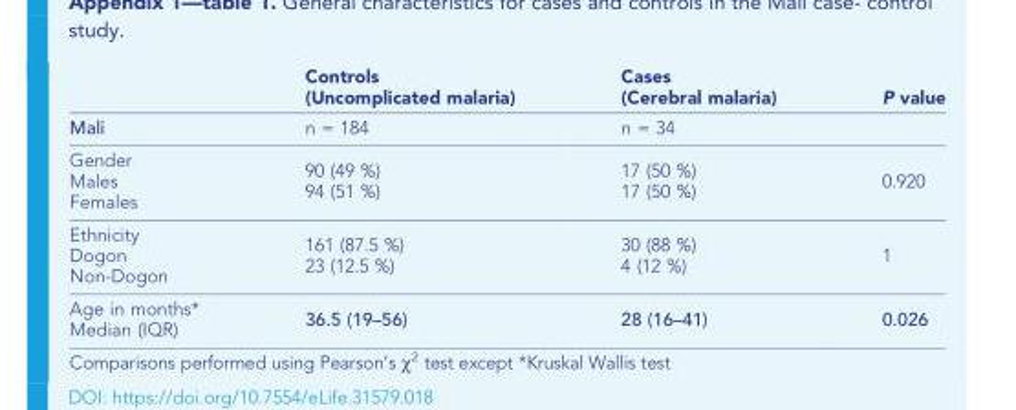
<table><thead><tr><td></td><td>Controls (Uncomplicated malaria)</td><td>Cases (Cerebral malaria)</td><td>P value</td></tr></thead><tbody><tr><td>Mali</td><td>n = 184</td><td>n = 34</td><td></td></tr><tr><td>Gender Males Females</td><td>90 (49 %) 94 (51 %)</td><td>17 (50 %) 17 (50 %)</td><td>0.920</td></tr><tr><td>Ethnicity Dogon Non-Dogon</td><td>161 (87.5 %) 23 (12.5 %)</td><td>30 (88 %) 4 (12 %)</td><td>1</td></tr><tr><td>Age in months* Median (IQR)</td><td>36.5 (19–56)</td><td>28 (16–41)</td><td>0.026</td></tr></tbody></table>